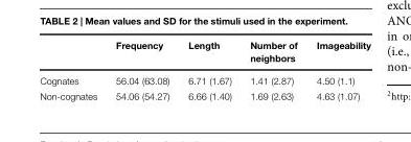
<table><thead><tr><td></td><td>Frequency</td><td>Length</td><td>Number of neighbors</td><td>Imageability</td></tr></thead><tbody><tr><td>Cognates</td><td>56.04 (63.08)</td><td>6.71 (1.67)</td><td>1.41 (2.87)</td><td>4.50 (1.1)</td></tr><tr><td>Non-cognates</td><td>54.06 (54.27)</td><td>6.66 (1.40)</td><td>1.69 (2.63)</td><td>4.63 (1.07)</td></tr></tbody></table>